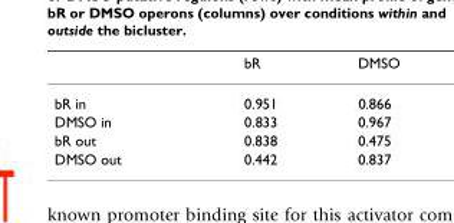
<table><thead><tr><td></td><td>bR</td><td>DMSO</td></tr></thead><tbody><tr><td>bR in</td><td>0.951</td><td>0.866</td></tr><tr><td>DMSO in</td><td>0.833</td><td>0.967</td></tr><tr><td>bR out</td><td>0.838</td><td>0.475</td></tr><tr><td>DMSO out</td><td>0.442</td><td>0.837</td></tr></tbody></table>